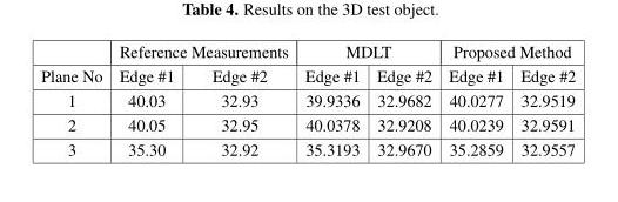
<table><thead><tr><td rowspan="2">Plane No</td><td colspan="2">Reference Measurements</td><td colspan="2">MDLT</td><td colspan="2">Proposed Method</td></tr><tr><td>Edge #1</td><td>Edge #2</td><td>Edge #1</td><td>Edge #2</td><td>Edge #1</td><td>Edge #2</td></tr></thead><tbody><tr><td>1</td><td>40.03</td><td>32.93</td><td>39.9336</td><td>32.9682</td><td>40.0277</td><td>32.9519</td></tr><tr><td>2</td><td>40.05</td><td>32.95</td><td>40.0378</td><td>32.9208</td><td>40.0239</td><td>32.9591</td></tr><tr><td>3</td><td>35.30</td><td>32.92</td><td>35.3193</td><td>32.9670</td><td>35.2859</td><td>32.9557</td></tr></tbody></table>